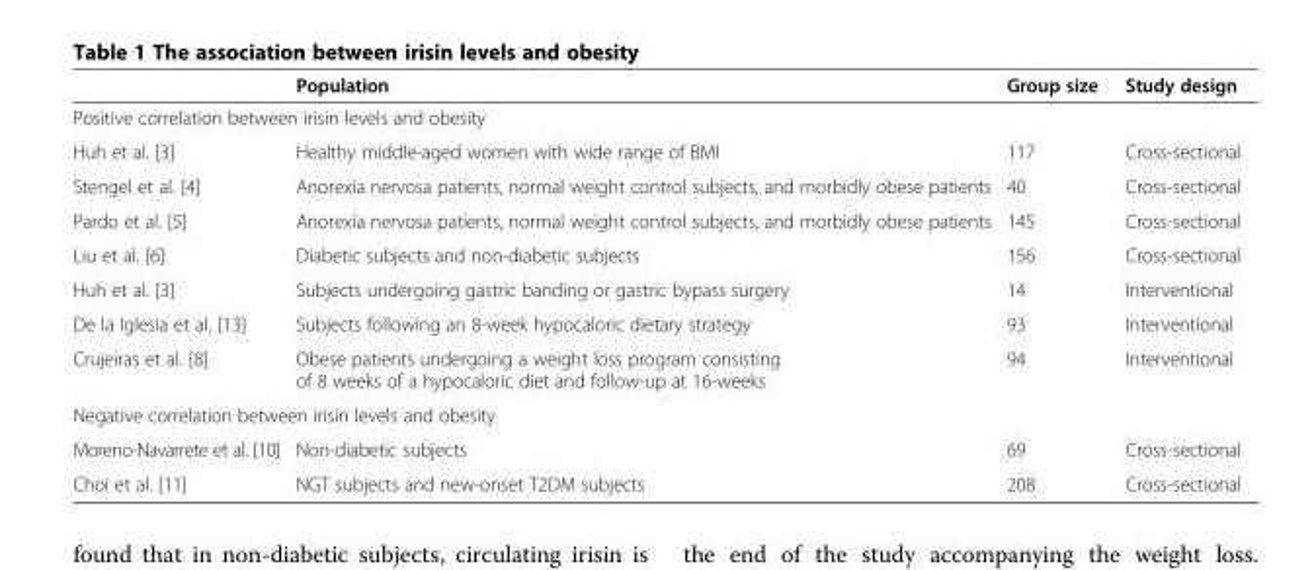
<table><thead><tr><td></td><td>Population</td><td>Group size</td><td>Study design</td></tr></thead><tbody><tr><td colspan="4">Positive correlation between irisin levels and obesity</td></tr><tr><td>Huh et al. [3]</td><td>Healthy middle-aged women with wide range of BMI</td><td>117</td><td>Cross-sectional</td></tr><tr><td>Stengel et al. [4]</td><td>Anorexia nervosa patients, normal weight control subjects, and morbidly obese patients</td><td>40</td><td>Cross-sectional</td></tr><tr><td>Pardo et al. [5]</td><td>Anorexia nervosa patients, normal weight control subjects, and morbidly obese patients</td><td>145</td><td>Cross-sectional</td></tr><tr><td>Liu et al. [6]</td><td>Diabetic subjects and non-diabetic subjects</td><td>156</td><td>Cross-sectional</td></tr><tr><td>Huh et al. [3]</td><td>Subjects undergoing gastric banding or gastric bypass surgery</td><td>14</td><td>Interventional</td></tr><tr><td>De la Iglesia et al. [13]</td><td>Subjects following an 8-week hypocaloric dietary strategy</td><td>93</td><td>Interventional</td></tr><tr><td>Crujeiras et al. [8]</td><td>Obese patients undergoing a weight loss program consisting of 8 weeks of a hypocaloric diet and follow-up at 16-weeks</td><td>94</td><td>Interventional</td></tr><tr><td colspan="4">Negative correlation between irisin levels and obesity</td></tr><tr><td>Moreno-Navarrete et al. [10]</td><td>Non-diabetic subjects</td><td>69</td><td>Cross-sectional</td></tr><tr><td>Choi et al. [11]</td><td>NGT subjects and new-onset T2DM subjects</td><td>208</td><td>Cross-sectional</td></tr></tbody></table>